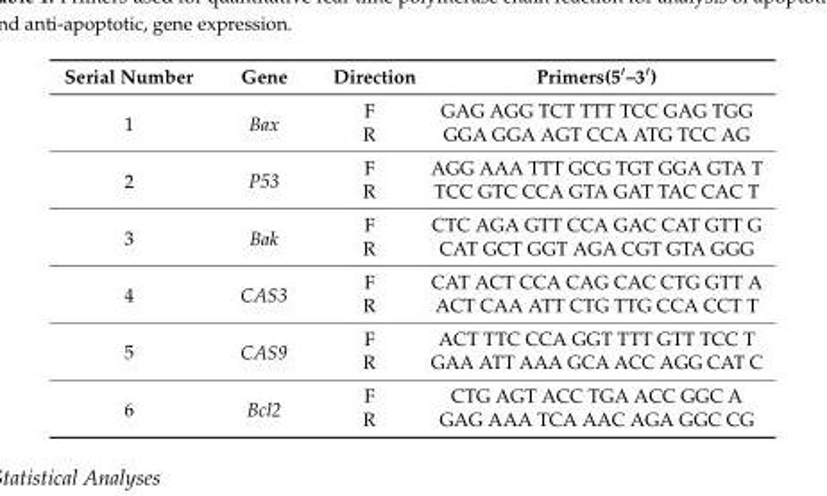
<table><thead><tr><td>Serial Number</td><td>Gene</td><td>Direction</td><td>Primers(5′–3′)</td></tr></thead><tbody><tr><td rowspan="2">1</td><td rowspan="2">Bax</td><td>F</td><td>GAG AGG TCT TTT TCC GAG TGG</td></tr><tr><td>R</td><td>GGA GGA AGT CCA ATG TCC AG</td></tr><tr><td rowspan="2">2</td><td rowspan="2">P53</td><td>F</td><td>AGG AAA TTT GCG TGT GGA GTA T</td></tr><tr><td>R</td><td>TCC GTC CCA GTA GAT TAC CAC T</td></tr><tr><td rowspan="2">3</td><td rowspan="2">Bak</td><td>F</td><td>CTC AGA GTT CCA GAC CAT GTT G</td></tr><tr><td>R</td><td>CAT GCT GGT AGA CGT GTA GGG</td></tr><tr><td rowspan="2">4</td><td rowspan="2">CAS3</td><td>F</td><td>CAT ACT CCA CAG CAC CTG GTT A</td></tr><tr><td>R</td><td>ACT CAA ATT CTG TTG CCA CCT T</td></tr><tr><td rowspan="2">5</td><td rowspan="2">CAS9</td><td>F</td><td>ACT TTC CCA GGT TTT GTT TCC T</td></tr><tr><td>R</td><td>GAA ATT AAA GCA ACC AGG CAT C</td></tr><tr><td rowspan="2">6</td><td rowspan="2">Bcl2</td><td>F</td><td>CTG AGT ACC TGA ACC GGC A</td></tr><tr><td>R</td><td>GAG AAA TCA AAC AGA GGC CG</td></tr></tbody></table>